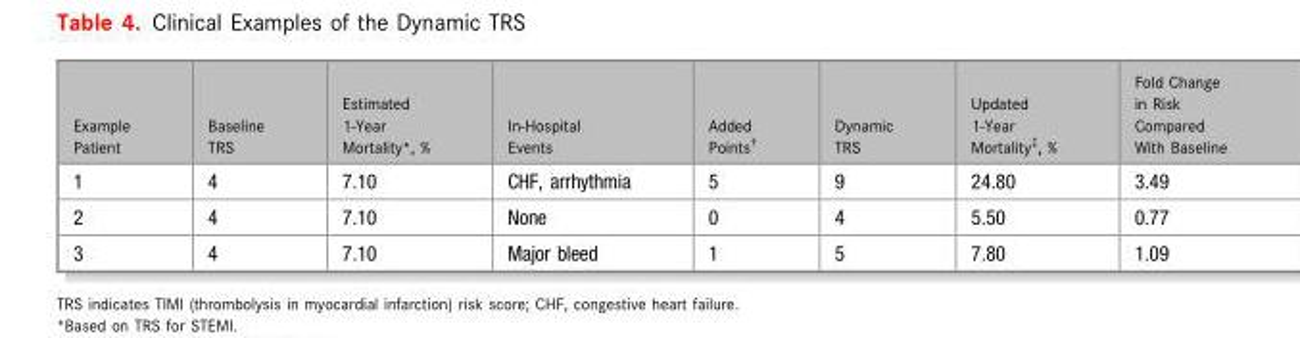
<table><thead><tr><td>Example Patient</td><td>Baseline TRS</td><td>Estimated 1-Year Mortality*, %</td><td>In-Hospital Events</td><td>Added Points†</td><td>Dynamic TRS</td><td>Updated 1-Year Mortality‡, %</td><td>Fold Change in Risk Compared With Baseline</td></tr></thead><tbody><tr><td>1</td><td>4</td><td>7.10</td><td>CHF, arrhythmia</td><td>5</td><td>9</td><td>24.80</td><td>3.49</td></tr><tr><td>2</td><td>4</td><td>7.10</td><td>None</td><td>0</td><td>4</td><td>5.50</td><td>0.77</td></tr><tr><td>3</td><td>4</td><td>7.10</td><td>Major bleed</td><td>1</td><td>5</td><td>7.80</td><td>1.09</td></tr></tbody></table>